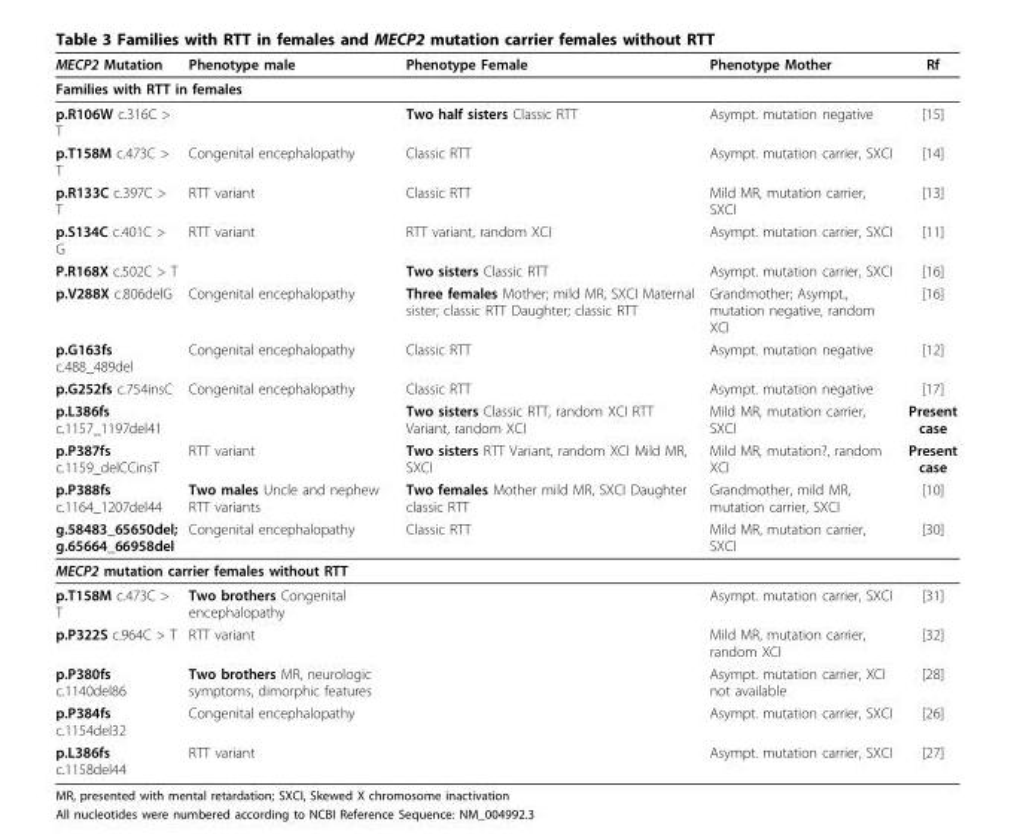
<table><thead><tr><td>MECP2 Mutation</td><td>Phenotype male</td><td>Phenotype Female</td><td>Phenotype Mother</td><td>Rf</td></tr></thead><tbody><tr><td colspan="5">Families with RTT in females</td></tr><tr><td>p.R106W c.316C &gt; T</td><td></td><td>Two half sisters Classic RTT</td><td>Asympt. mutation negative</td><td>[15]</td></tr><tr><td>p.T158M c.473C &gt; T</td><td>Congenital encephalopathy</td><td>Classic RTT</td><td>Asympt. mutation carrier, SXCI</td><td>[14]</td></tr><tr><td>p.R133C c.397C &gt; T</td><td>RTT variant</td><td>Classic RTT</td><td>Mild MR, mutation carrier, SXCI</td><td>[13]</td></tr><tr><td>p.S134C c.401C &gt; G</td><td>RTT variant</td><td>RTT variant, random XCI</td><td>Asympt. mutation carrier, SXCI</td><td>[11]</td></tr><tr><td>P.R168X c.502C &gt; T</td><td></td><td>Two sisters Classic RTT</td><td>Asympt. mutation carrier, SXCI</td><td>[16]</td></tr><tr><td>p.V288X c.806delG</td><td>Congenital encephalopathy</td><td>Three females Mother; mild MR, SXCI Maternal sister; classic RTT Daughter; classic RTT</td><td>Grandmother; Asympt., mutation negative, random XCI</td><td>[16]</td></tr><tr><td>p.G163fs c.488_489del</td><td>Congenital encephalopathy</td><td>Classic RTT</td><td>Asympt. mutation negative</td><td>[12]</td></tr><tr><td>p.G252fs c.754insC</td><td>Congenital encephalopathy</td><td>Classic RTT</td><td>Asympt. mutation negative</td><td>[17]</td></tr><tr><td>p.L386fs c.1157_1197del41</td><td></td><td>Two sisters Classic RTT, random XCI RTT Variant, random XCI</td><td>Mild MR, mutation carrier, SXCI</td><td>Present case</td></tr><tr><td>p.P387fs c.1159_delCCinsT</td><td>RTT variant</td><td>Two sisters RTT Variant, random XCI Mild MR, SXCI</td><td>Mild MR, mutation?, random XCI</td><td>Present case</td></tr><tr><td>p.P388fs c.1164_1207del44</td><td>Two males Uncle and nephew RTT variants</td><td>Two females Mother mild MR, SXCI Daughter classic RTT</td><td>Grandmother, mild MR, mutation carrier, SXCI</td><td>[10]</td></tr><tr><td>g.58483_65650del; g.65664_66958del</td><td>Congenital encephalopathy</td><td>Classic RTT</td><td>Mild MR, mutation carrier, SXCI</td><td>[30]</td></tr><tr><td colspan="5">MECP2 mutation carrier females without RTT</td></tr><tr><td>p.T158M c.473C &gt; T</td><td>Two brothers Congenital encephalopathy</td><td></td><td>Asympt. mutation carrier, SXCI</td><td>[31]</td></tr><tr><td>p.P322S c.964C &gt; T</td><td>RTT variant</td><td></td><td>Mild MR, mutation carrier, random XCI</td><td>[32]</td></tr><tr><td>p.P380fs c.1140del86</td><td>Two brothers MR, neurologic symptoms, dimorphic features</td><td></td><td>Asympt. mutation carrier, XCI not available</td><td>[28]</td></tr><tr><td>p.P384fs c.1154del32</td><td>Congenital encephalopathy</td><td></td><td>Asympt. mutation carrier, SXCI</td><td>[26]</td></tr><tr><td>p.L386fs c.1158del44</td><td>RTT variant</td><td></td><td>Asympt. mutation carrier, SXCI</td><td>[27]</td></tr></tbody></table>